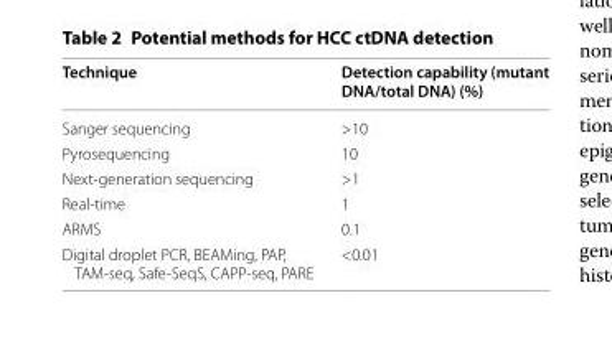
<table><thead><tr><td>Technique</td><td>Detection capability (mutant DNA/total DNA) (%)</td></tr></thead><tbody><tr><td>Sanger sequencing</td><td>&gt;10</td></tr><tr><td>Pyrosequencing</td><td>10</td></tr><tr><td>Next‑generation sequencing</td><td>&gt;1</td></tr><tr><td>Real‑time</td><td>1</td></tr><tr><td>ARMS</td><td>0.1</td></tr><tr><td>Digital droplet PCR, BEAMing, PAP, TAM‑seq, Safe‑SeqS, CAPP‑seq, PARE</td><td>&lt;0.01</td></tr></tbody></table>